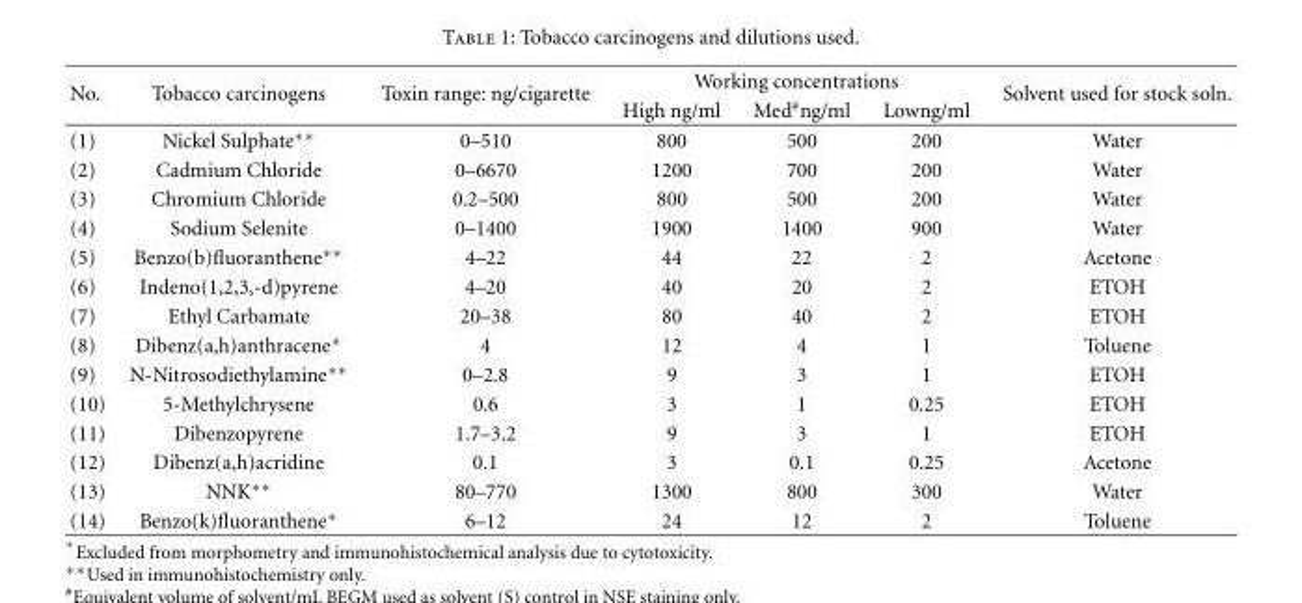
<table><thead><tr><td rowspan="2">No.</td><td rowspan="2">Tobacco carcinogens</td><td rowspan="2">Toxin range: ng/cigarette</td><td colspan="3">Working concentrations</td><td rowspan="2">Solvent used for stock soln.</td></tr><tr><td>High ng/ml</td><td>Med<sup>#</sup>ng/ml</td><td>Lowng/ml</td></tr></thead><tbody><tr><td>(1)</td><td>Nickel Sulphate∗∗</td><td>0–510</td><td>800</td><td>500</td><td>200</td><td>Water</td></tr><tr><td>(2)</td><td>Cadmium Chloride</td><td>0–6670</td><td>1200</td><td>700</td><td>200</td><td>Water</td></tr><tr><td>(3)</td><td>Chromium Chloride</td><td>0.2–500</td><td>800</td><td>500</td><td>200</td><td>Water</td></tr><tr><td>(4)</td><td>Sodium Selenite</td><td>0–1400</td><td>1900</td><td>1400</td><td>900</td><td>Water</td></tr><tr><td>(5)</td><td>Benzo(b)fluoranthene∗∗</td><td>4–22</td><td>44</td><td>22</td><td>2</td><td>Acetone</td></tr><tr><td>(6)</td><td>Indeno(1,2,3,-d)pyrene</td><td>4–20</td><td>40</td><td>20</td><td>2</td><td>ETOH</td></tr><tr><td>(7)</td><td>Ethyl Carbamate</td><td>20–38</td><td>80</td><td>40</td><td>2</td><td>ETOH</td></tr><tr><td>(8)</td><td>Dibenz(a,h)anthracene∗</td><td>4</td><td>12</td><td>4</td><td>1</td><td>Toluene</td></tr><tr><td>(9)</td><td>N-Nitrosodiethylamine∗∗</td><td>0–2.8</td><td>9</td><td>3</td><td>1</td><td>ETOH</td></tr><tr><td>(10)</td><td>5-Methylchrysene</td><td>0.6</td><td>3</td><td>1</td><td>0.25</td><td>ETOH</td></tr><tr><td>(11)</td><td>Dibenzopyrene</td><td>1.7–3.2</td><td>9</td><td>3</td><td>1</td><td>ETOH</td></tr><tr><td>(12)</td><td>Dibenz(a,h)acridine</td><td>0.1</td><td>3</td><td>0.1</td><td>0.25</td><td>Acetone</td></tr><tr><td>(13)</td><td>NNK∗∗</td><td>80–770</td><td>1300</td><td>800</td><td>300</td><td>Water</td></tr><tr><td>(14)</td><td>Benzo(k)fluoranthene∗</td><td>6–12</td><td>24</td><td>12</td><td>2</td><td>Toluene</td></tr></tbody></table>